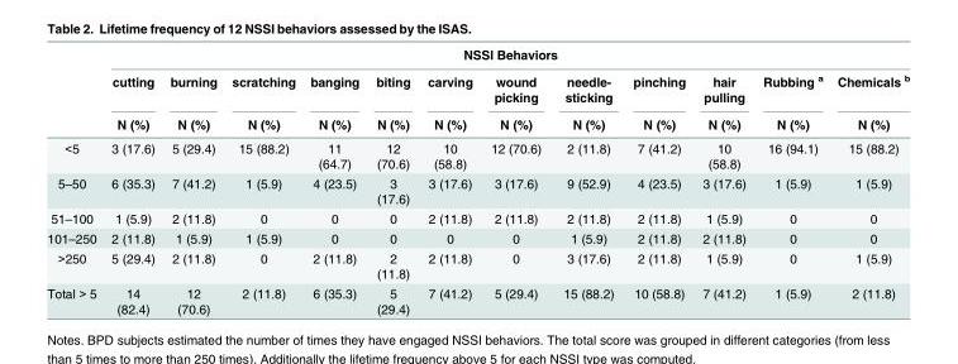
<table><thead><tr><td rowspan="3"></td><td colspan="12">NSSI Behaviors</td></tr><tr><td rowspan="2">cutting N (%)</td><td rowspan="2">burning N (%)</td><td rowspan="2">scratching N (%)</td><td rowspan="2">banging N (%)</td><td rowspan="2">biting N (%)</td><td rowspan="2">carving N (%)</td><td rowspan="2">wound picking N (%)</td><td rowspan="2">needle- sticking N (%)</td><td rowspan="2">pinching N (%)</td><td rowspan="2">hair pulling N (%)</td><td rowspan="2">Rubbing <sup>a</sup> N (%)</td><td rowspan="2">Chemicals <sup>b</sup> N (%)</td></tr><tr></tr></thead><tbody><tr><td>&lt;5</td><td>3 (17.6)</td><td>5 (29.4)</td><td>15 (88.2)</td><td>11 (64.7)</td><td>12 (70.6)</td><td>10 (58.8)</td><td>12 (70.6)</td><td>2 (11.8)</td><td>7 (41.2)</td><td>10 (58.8)</td><td>16 (94.1)</td><td>15 (88.2)</td></tr><tr><td>5–50</td><td>6 (35.3)</td><td>7 (41.2)</td><td>1 (5.9)</td><td>4 (23.5)</td><td>3 (17.6)</td><td>3 (17.6)</td><td>3 (17.6)</td><td>9 (52.9)</td><td>4 (23.5)</td><td>3 (17.6)</td><td>1 (5.9)</td><td>1 (5.9)</td></tr><tr><td>51–100</td><td>1 (5.9)</td><td>2 (11.8)</td><td>0</td><td>0</td><td>0</td><td>2 (11.8)</td><td>2 (11.8)</td><td>2 (11.8)</td><td>2 (11.8)</td><td>1 (5.9)</td><td>0</td><td>0</td></tr><tr><td>101–250</td><td>2 (11.8)</td><td>1 (5.9)</td><td>1 (5.9)</td><td>0</td><td>0</td><td>0</td><td>0</td><td>1 (5.9)</td><td>2 (11.8)</td><td>2 (11.8)</td><td>0</td><td>0</td></tr><tr><td>&gt;250</td><td>5 (29.4)</td><td>2 (11.8)</td><td>0</td><td>2 (11.8)</td><td>2 (11.8)</td><td>2 (11.8)</td><td>0</td><td>3 (17.6)</td><td>2 (11.8)</td><td>1 (5.9)</td><td>0</td><td>1 (5.9)</td></tr><tr><td>Total &gt; 5</td><td>14 (82.4)</td><td>12 (70.6)</td><td>2 (11.8)</td><td>6 (35.3)</td><td>5 (29.4)</td><td>7 (41.2)</td><td>5 (29.4)</td><td>15 (88.2)</td><td>10 (58.8)</td><td>7 (41.2)</td><td>1 (5.9)</td><td>2 (11.8)</td></tr></tbody></table>